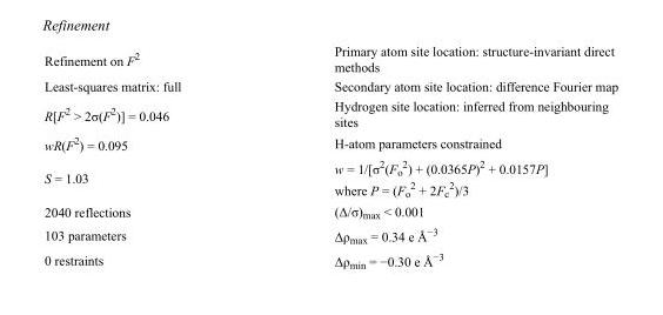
<table><tbody><tr><td>Refinement on F<sup>2</sup></td><td>Primary atom site location: structure-invariant direct methods</td></tr><tr><td>Least-squares matrix: full</td><td>Secondary atom site location: difference Fourier map</td></tr><tr><td>R[F<sup>2</sup> &gt; 2σ(F<sup>2</sup>)] = 0.046</td><td>Hydrogen site location: inferred from neighbouring sites</td></tr><tr><td>wR(F<sup>2</sup>) = 0.095</td><td>H-atom parameters constrained</td></tr><tr><td>S = 1.03</td><td>w = 1/[σ<sup>2</sup>(F<sub>o</sub> <sup>2</sup>) + (0.0365P)<sup>2</sup> + 0.0157P] where P = (F<sub>o</sub> <sup>2</sup> + 2F<sub>c</sub> <sup>2</sup>)/3</td></tr><tr><td>2040 reflections</td><td>(Δ/σ)<sub>max</sub> &lt; 0.001</td></tr><tr><td>103 parameters</td><td>Δρ<sub>max</sub> = 0.34 e Å<sup>−3</sup></td></tr><tr><td>0 restraints</td><td>Δρ<sub>min</sub> = −0.30 e Å<sup>−3</sup></td></tr></tbody></table>